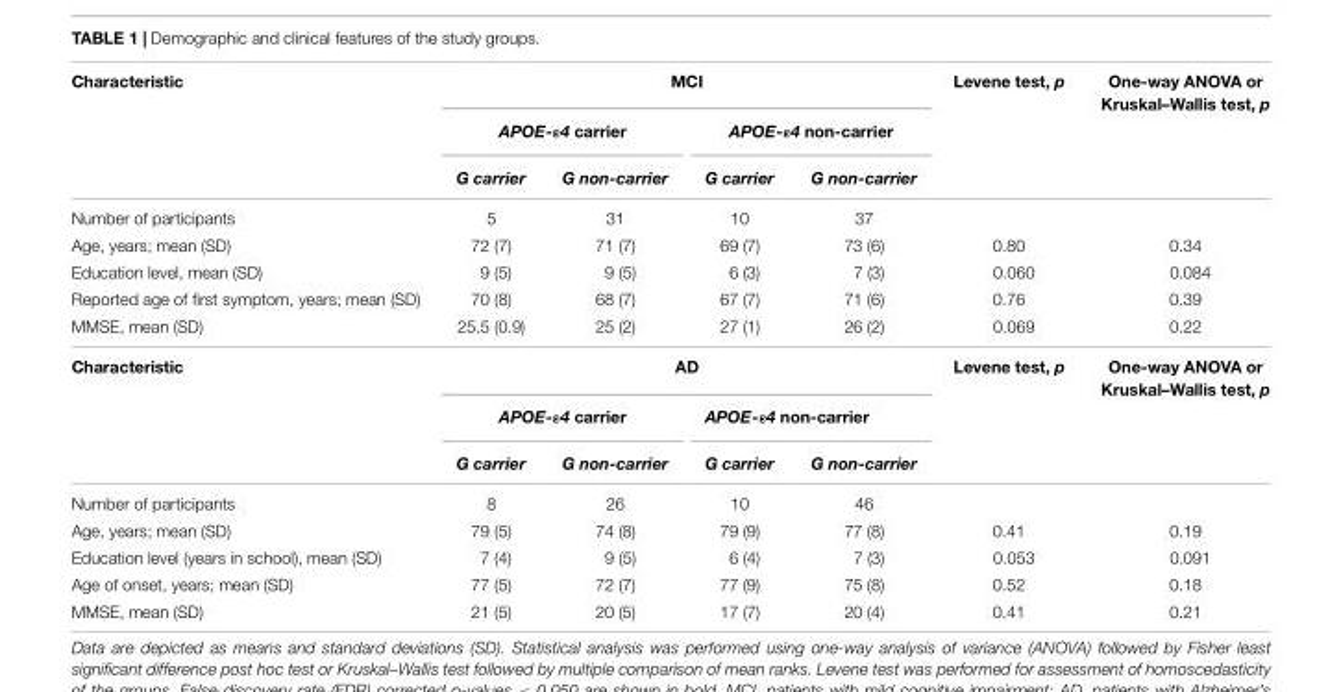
<table><thead><tr><td rowspan="3">Characteristic</td><td colspan="4">MCI</td><td rowspan="3">Levene test, p</td><td rowspan="3">One-way ANOVA or Kruskal–Wallis test, p</td></tr><tr><td colspan="2">APOE-ε4 carrier</td><td colspan="2">APOE-ε4 non-carrier</td></tr><tr><td>G carrier</td><td>G non-carrier</td><td>G carrier</td><td>G non-carrier</td></tr></thead><tbody><tr><td>Number of participants</td><td>5</td><td>31</td><td>10</td><td>37</td><td></td><td></td></tr><tr><td>Age, years; mean (SD)</td><td>72 (7)</td><td>71 (7)</td><td>69 (7)</td><td>73 (6)</td><td>0.80</td><td>0.34</td></tr><tr><td>Education level, mean (SD)</td><td>9 (5)</td><td>9 (5)</td><td>6 (3)</td><td>7 (3)</td><td>0.060</td><td>0.084</td></tr><tr><td>Reported age of first symptom, years; mean (SD)</td><td>70 (8)</td><td>68 (7)</td><td>67 (7)</td><td>71 (6)</td><td>0.76</td><td>0.39</td></tr><tr><td>MMSE, mean (SD)</td><td>25.5 (0.9)</td><td>25 (2)</td><td>27 (1)</td><td>26 (2)</td><td>0.069</td><td>0.22</td></tr><tr><td rowspan="3">Characteristic</td><td colspan="4">AD</td><td>Levene test, p</td><td>One-way ANOVA or Kruskal–Wallis test, p</td></tr><tr><td colspan="2">APOE-ε4 carrier</td><td colspan="2">APOE-ε4 non-carrier</td><td></td><td></td></tr><tr><td>G carrier</td><td>G non-carrier</td><td>G carrier</td><td>G non-carrier</td><td></td><td></td></tr><tr><td>Number of participants</td><td>8</td><td>26</td><td>10</td><td>46</td><td></td><td></td></tr><tr><td>Age, years; mean (SD)</td><td>79 (5)</td><td>74 (8)</td><td>79 (9)</td><td>77 (8)</td><td>0.41</td><td>0.19</td></tr><tr><td>Education level (years in school), mean (SD)</td><td>7 (4)</td><td>9 (5)</td><td>6 (4)</td><td>7 (3)</td><td>0.053</td><td>0.091</td></tr><tr><td>Age of onset, years; mean (SD)</td><td>77 (5)</td><td>72 (7)</td><td>77 (9)</td><td>75 (8)</td><td>0.52</td><td>0.18</td></tr><tr><td>MMSE, mean (SD)</td><td>21 (5)</td><td>20 (5)</td><td>17 (7)</td><td>20 (4)</td><td>0.41</td><td>0.21</td></tr></tbody></table>